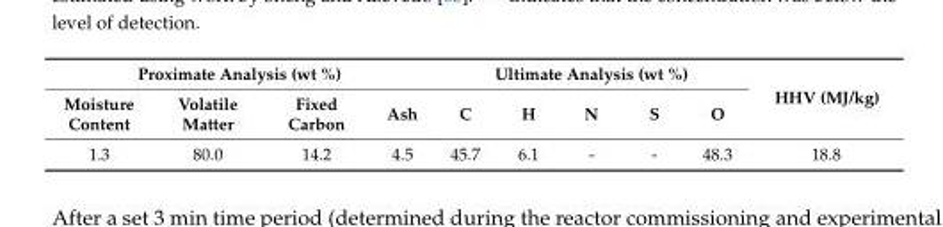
<table><thead><tr><td colspan="4">Proximate Analysis (wt %)</td><td colspan="5">Ultimate Analysis (wt %)</td><td rowspan="2">HHV (MJ/kg)</td></tr><tr><td>Moisture Content</td><td>Volatile Matter</td><td>Fixed Carbon</td><td>Ash</td><td>C</td><td>H</td><td>N</td><td>S</td><td>O</td></tr></thead><tbody><tr><td>1.3</td><td>80.0</td><td>14.2</td><td>4.5</td><td>45.7</td><td>6.1</td><td>-</td><td>-</td><td>48.3</td><td>18.8</td></tr></tbody></table>